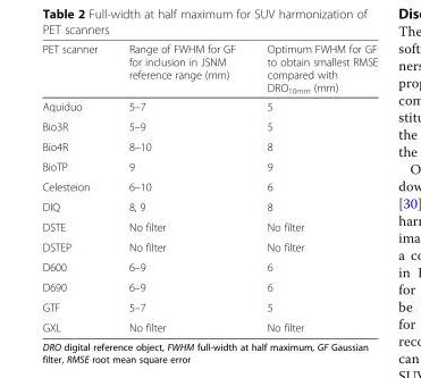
<table><thead><tr><td>PET scanner</td><td>Range of FWHM for GF for inclusion in JSNM reference range (mm)</td><td>Optimum FWHM for GF to obtain smallest RMSE compared with DRO<sub>10mm</sub> (mm)</td></tr></thead><tbody><tr><td>Aquiduo</td><td>5–7</td><td>5</td></tr><tr><td>Bio3R</td><td>5–9</td><td>5</td></tr><tr><td>Bio4R</td><td>8–10</td><td>8</td></tr><tr><td>BioTP</td><td>9</td><td>9</td></tr><tr><td>Celesteion</td><td>6–10</td><td>6</td></tr><tr><td>DIQ</td><td>8, 9</td><td>8</td></tr><tr><td>DSTE</td><td>No filter</td><td>No filter</td></tr><tr><td>DSTEP</td><td>No filter</td><td>No filter</td></tr><tr><td>D600</td><td>6–9</td><td>6</td></tr><tr><td>D690</td><td>6–9</td><td>6</td></tr><tr><td>GTF</td><td>5–7</td><td>5</td></tr><tr><td>GXL</td><td>No filter</td><td>No filter</td></tr></tbody></table>